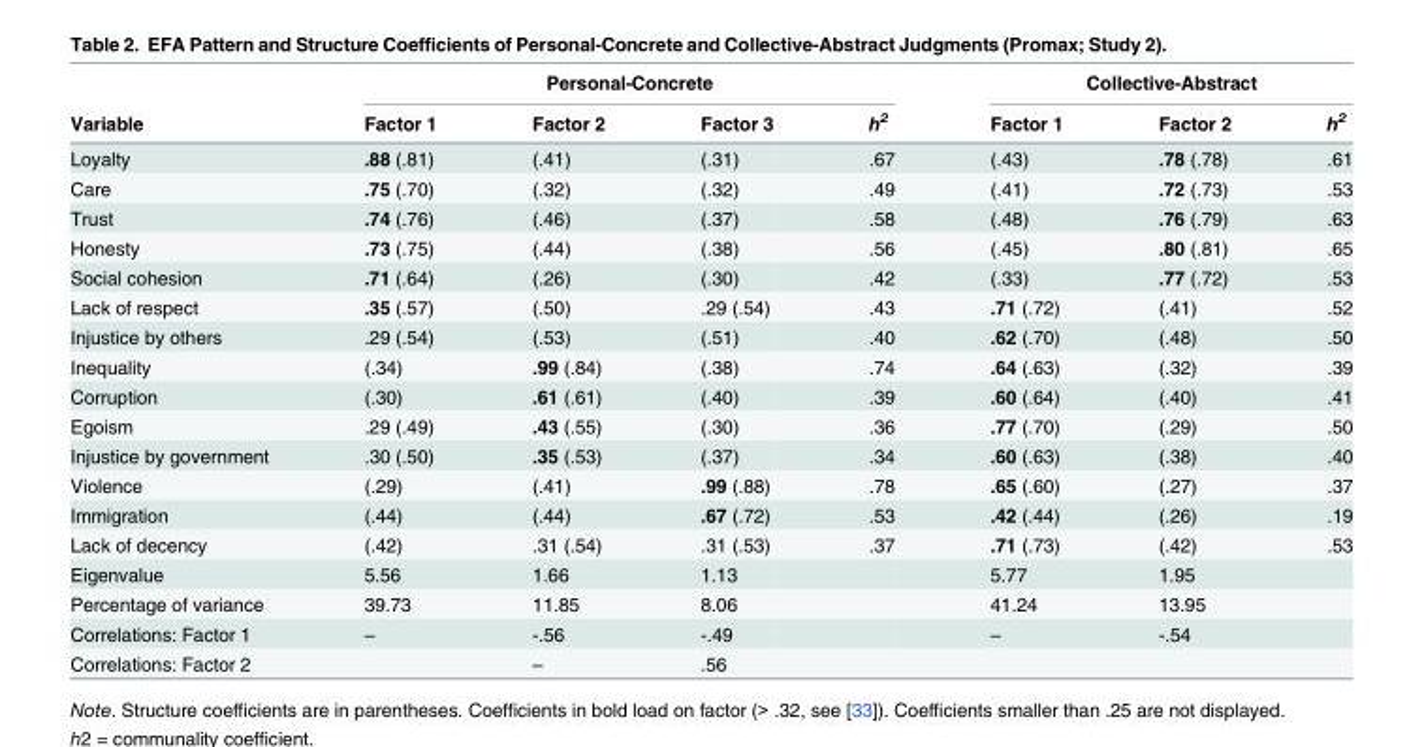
<table><thead><tr><td rowspan="2">Variable</td><td colspan="4">Personal-Concrete</td><td colspan="3">Collective-Abstract</td></tr><tr><td>Factor 1</td><td>Factor 2</td><td>Factor 3</td><td>h<sup>2</sup></td><td>Factor 1</td><td>Factor 2</td><td>h<sup>2</sup></td></tr></thead><tbody><tr><td>Loyalty</td><td>.88 (.81)</td><td>(.41)</td><td>(.31)</td><td>.67</td><td>(.43)</td><td>.78 (.78)</td><td>.61</td></tr><tr><td>Care</td><td>.75 (.70)</td><td>(.32)</td><td>(.32)</td><td>.49</td><td>(.41)</td><td>.72 (.73)</td><td>.53</td></tr><tr><td>Trust</td><td>.74 (.76)</td><td>(.46)</td><td>(.37)</td><td>.58</td><td>(.48)</td><td>.76 (.79)</td><td>.63</td></tr><tr><td>Honesty</td><td>.73 (.75)</td><td>(.44)</td><td>(.38)</td><td>.56</td><td>(.45)</td><td>.80 (.81)</td><td>.65</td></tr><tr><td>Social cohesion</td><td>.71 (.64)</td><td>(.26)</td><td>(.30)</td><td>.42</td><td>(.33)</td><td>.77 (.72)</td><td>.53</td></tr><tr><td>Lack of respect</td><td>.35 (.57)</td><td>(.50)</td><td>.29 (.54)</td><td>.43</td><td>.71 (.72)</td><td>(.41)</td><td>.52</td></tr><tr><td>Injustice by others</td><td>.29 (.54)</td><td>(.53)</td><td>(.51)</td><td>.40</td><td>.62 (.70)</td><td>(.48)</td><td>.50</td></tr><tr><td>Inequality</td><td>(.34)</td><td>.99 (.84)</td><td>(.38)</td><td>.74</td><td>.64 (.63)</td><td>(.32)</td><td>.39</td></tr><tr><td>Corruption</td><td>(.30)</td><td>.61 (.61)</td><td>(.40)</td><td>.39</td><td>.60 (.64)</td><td>(.40)</td><td>.41</td></tr><tr><td>Egoism</td><td>.29 (.49)</td><td>.43 (.55)</td><td>(.30)</td><td>.36</td><td>.77 (.70)</td><td>(.29)</td><td>.50</td></tr><tr><td>Injustice by government</td><td>.30 (.50)</td><td>.35 (.53)</td><td>(.37)</td><td>.34</td><td>.60 (.63)</td><td>(.38)</td><td>.40</td></tr><tr><td>Violence</td><td>(.29)</td><td>(.41)</td><td>.99 (.88)</td><td>.78</td><td>.65 (.60)</td><td>(.27)</td><td>.37</td></tr><tr><td>Immigration</td><td>(.44)</td><td>(.44)</td><td>.67 (.72)</td><td>.53</td><td>.42 (.44)</td><td>(.26)</td><td>.19</td></tr><tr><td>Lack of decency</td><td>(.42)</td><td>.31 (.54)</td><td>.31 (.53)</td><td>.37</td><td>.71 (.73)</td><td>(.42)</td><td>.53</td></tr><tr><td>Eigenvalue</td><td>5.56</td><td>1.66</td><td>1.13</td><td></td><td>5.77</td><td>1.95</td><td></td></tr><tr><td>Percentage of variance</td><td>39.73</td><td>11.85</td><td>8.06</td><td></td><td>41.24</td><td>13.95</td><td></td></tr><tr><td>Correlations: Factor 1</td><td>–</td><td>-.56</td><td>-.49</td><td></td><td>–</td><td>-.54</td><td></td></tr><tr><td>Correlations: Factor 2</td><td></td><td>–</td><td>.56</td><td></td><td></td><td></td><td></td></tr></tbody></table>